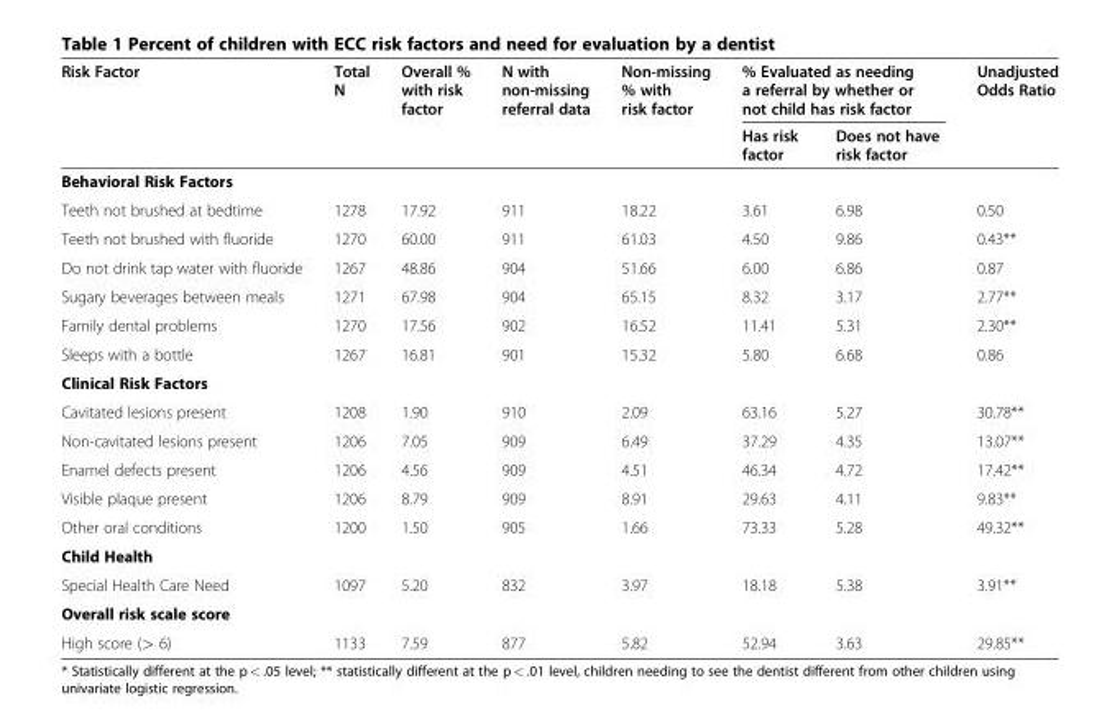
<table><thead><tr><td rowspan="2">Risk Factor</td><td rowspan="2">Total N</td><td rowspan="2">Overall % with risk factor</td><td rowspan="2">N with non-missing referral data</td><td rowspan="2">Non-missing % with risk factor</td><td colspan="2">% Evaluated as needing a referral by whether or not child has risk factor</td><td rowspan="2">Unadjusted Odds Ratio</td></tr><tr><td>Has risk factor</td><td>Does not have risk factor</td></tr></thead><tbody><tr><td colspan="8">Behavioral Risk Factors</td></tr><tr><td>Teeth not brushed at bedtime</td><td>1278</td><td>17.92</td><td>911</td><td>18.22</td><td>3.61</td><td>6.98</td><td>0.50</td></tr><tr><td>Teeth not brushed with fluoride</td><td>1270</td><td>60.00</td><td>911</td><td>61.03</td><td>4.50</td><td>9.86</td><td>0.43**</td></tr><tr><td>Do not drink tap water with fluoride</td><td>1267</td><td>48.86</td><td>904</td><td>51.66</td><td>6.00</td><td>6.86</td><td>0.87</td></tr><tr><td>Sugary beverages between meals</td><td>1271</td><td>67.98</td><td>904</td><td>65.15</td><td>8.32</td><td>3.17</td><td>2.77**</td></tr><tr><td>Family dental problems</td><td>1270</td><td>17.56</td><td>902</td><td>16.52</td><td>11.41</td><td>5.31</td><td>2.30**</td></tr><tr><td>Sleeps with a bottle</td><td>1267</td><td>16.81</td><td>901</td><td>15.32</td><td>5.80</td><td>6.68</td><td>0.86</td></tr><tr><td colspan="8">Clinical Risk Factors</td></tr><tr><td>Cavitated lesions present</td><td>1208</td><td>1.90</td><td>910</td><td>2.09</td><td>63.16</td><td>5.27</td><td>30.78**</td></tr><tr><td>Non-cavitated lesions present</td><td>1206</td><td>7.05</td><td>909</td><td>6.49</td><td>37.29</td><td>4.35</td><td>13.07**</td></tr><tr><td>Enamel defects present</td><td>1206</td><td>4.56</td><td>909</td><td>4.51</td><td>46.34</td><td>4.72</td><td>17.42**</td></tr><tr><td>Visible plaque present</td><td>1206</td><td>8.79</td><td>909</td><td>8.91</td><td>29.63</td><td>4.11</td><td>9.83**</td></tr><tr><td>Other oral conditions</td><td>1200</td><td>1.50</td><td>905</td><td>1.66</td><td>73.33</td><td>5.28</td><td>49.32**</td></tr><tr><td colspan="8">Child Health</td></tr><tr><td>Special Health Care Need</td><td>1097</td><td>5.20</td><td>832</td><td>3.97</td><td>18.18</td><td>5.38</td><td>3.91**</td></tr><tr><td colspan="8">Overall risk scale score</td></tr><tr><td>High score (&gt; 6)</td><td>1133</td><td>7.59</td><td>877</td><td>5.82</td><td>52.94</td><td>3.63</td><td>29.85**</td></tr></tbody></table>